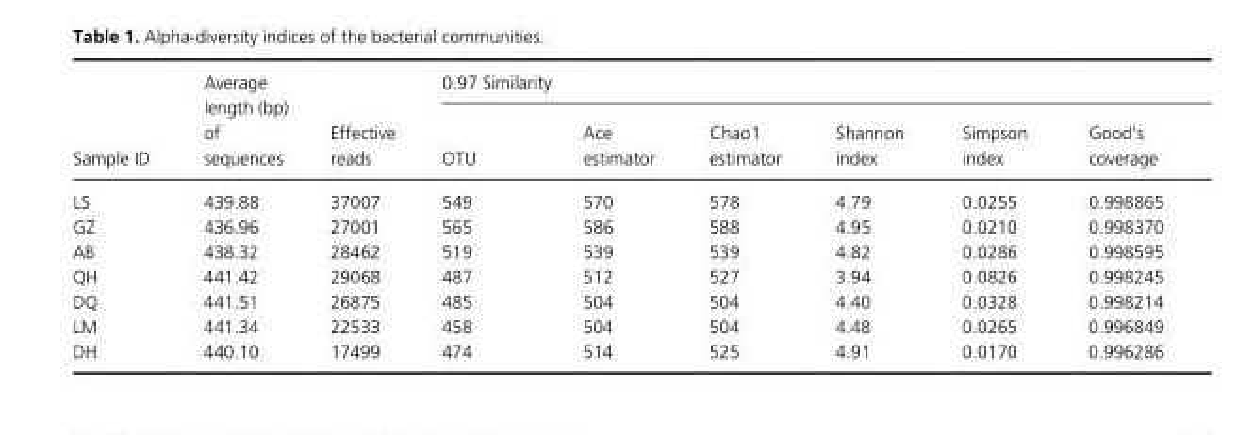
<table><thead><tr><td rowspan="2">Sample ID</td><td rowspan="2">Average length (bp) of sequences</td><td rowspan="2">Effective reads</td><td colspan="6">0.97 Similarity</td></tr><tr><td>OTU</td><td>Ace estimator</td><td>Chao1 estimator</td><td>Shannon index</td><td>Simpson index</td><td>Good’s coverage</td></tr></thead><tbody><tr><td>LS</td><td>439.88</td><td>37007</td><td>549</td><td>570</td><td>578</td><td>4.79</td><td>0.0255</td><td>0.998865</td></tr><tr><td>GZ</td><td>436.96</td><td>27001</td><td>565</td><td>586</td><td>588</td><td>4.95</td><td>0.0210</td><td>0.998370</td></tr><tr><td>AB</td><td>438.32</td><td>28462</td><td>519</td><td>539</td><td>539</td><td>4.82</td><td>0.0286</td><td>0.998595</td></tr><tr><td>QH</td><td>441.42</td><td>29068</td><td>487</td><td>512</td><td>527</td><td>3.94</td><td>0.0826</td><td>0.998245</td></tr><tr><td>DQ</td><td>441.51</td><td>26875</td><td>485</td><td>504</td><td>504</td><td>4.40</td><td>0.0328</td><td>0.998214</td></tr><tr><td>LM</td><td>441.34</td><td>22533</td><td>458</td><td>504</td><td>504</td><td>4.48</td><td>0.0265</td><td>0.996849</td></tr><tr><td>DH</td><td>440.10</td><td>17499</td><td>474</td><td>514</td><td>525</td><td>4.91</td><td>0.0170</td><td>0.996286</td></tr></tbody></table>